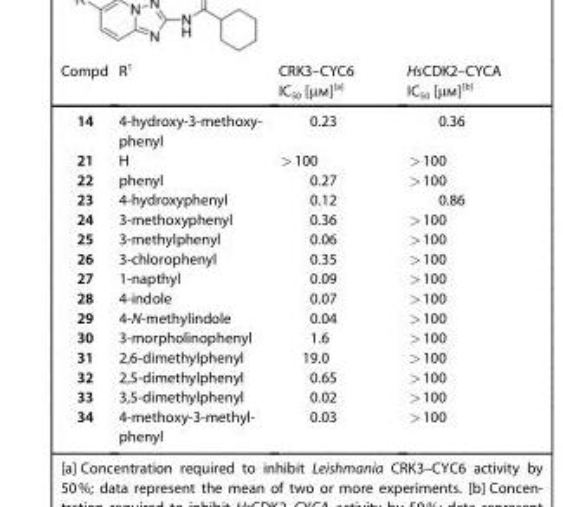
<table><thead><tr><td>Compd</td><td>R<sup>1</sup></td><td>CRK3–CYC6 IC<sub>50</sub> [μm][a]</td><td>HsCDK2–CYCA IC<sub>50</sub> [μm][b]</td></tr></thead><tbody><tr><td>14</td><td>4-hydroxy-3-methoxy- phenyl</td><td>0.23</td><td>0.36</td></tr><tr><td>21</td><td>H</td><td>&gt;100</td><td>&gt;100</td></tr><tr><td>22</td><td>phenyl</td><td>0.27</td><td>&gt;100</td></tr><tr><td>23</td><td>4-hydroxyphenyl</td><td>0.12</td><td>0.86</td></tr><tr><td>24</td><td>3-methoxyphenyl</td><td>0.36</td><td>&gt;100</td></tr><tr><td>25</td><td>3-methylphenyl</td><td>0.06</td><td>&gt;100</td></tr><tr><td>26</td><td>3-chlorophenyl</td><td>0.35</td><td>&gt;100</td></tr><tr><td>27</td><td>1-napthyl</td><td>0.09</td><td>&gt;100</td></tr><tr><td>28</td><td>4-indole</td><td>0.07</td><td>&gt;100</td></tr><tr><td>29</td><td>4-N-methylindole</td><td>0.04</td><td>&gt;100</td></tr><tr><td>30</td><td>3-morpholinophenyl</td><td>1.6</td><td>&gt;100</td></tr><tr><td>31</td><td>2,6-dimethylphenyl</td><td>19.0</td><td>&gt;100</td></tr><tr><td>32</td><td>2,5-dimethylphenyl</td><td>0.65</td><td>&gt;100</td></tr><tr><td>33</td><td>3,5-dimethylphenyl</td><td>0.02</td><td>&gt;100</td></tr><tr><td>34</td><td>4-methoxy-3-methyl- phenyl</td><td>0.03</td><td>&gt;100</td></tr></tbody></table>